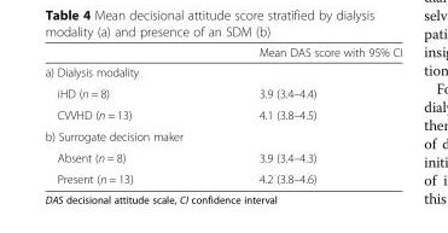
<table><thead><tr><td></td><td>Mean DAS score with 95% CI</td></tr></thead><tbody><tr><td colspan="2">a) Dialysis modality</td></tr><tr><td>iHD (n = 8)</td><td>3.9 (3.4–4.4)</td></tr><tr><td>CVVHD (n = 13)</td><td>4.1 (3.8–4.5)</td></tr><tr><td colspan="2">b) Surrogate decision maker</td></tr><tr><td>Absent (n = 8)</td><td>3.9 (3.4–4.3)</td></tr><tr><td>Present (n = 13)</td><td>4.2 (3.8–4.6)</td></tr></tbody></table>